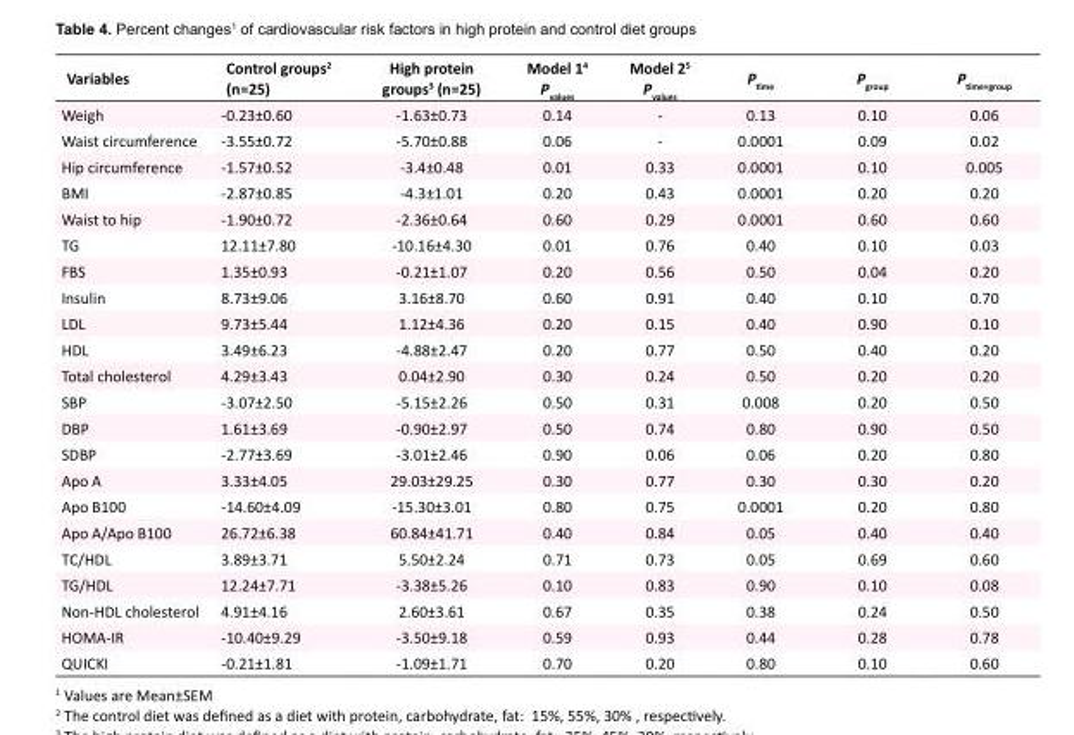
<table><tbody><tr><td>Variables</td><td>Control groups<sup>2</sup> (n=25)</td><td>High protein groups<sup>3</sup> (n=25)</td><td>Model 1<sup>4</sup> P<sub>values</sub></td><td>Model 2<sup>5</sup> P<sub>values</sub></td><td>P<sub>time</sub></td><td>P<sub>group</sub></td><td>P<sub>time×group</sub></td></tr><tr><td>Weigh</td><td>-0.23±0.60</td><td>-1.63±0.73</td><td>0.14</td><td>-</td><td>0.13</td><td>0.10</td><td>0.06</td></tr><tr><td>Waist circumference</td><td>-3.55±0.72</td><td>-5.70±0.88</td><td>0.06</td><td>-</td><td>0.0001</td><td>0.09</td><td>0.02</td></tr><tr><td>Hip circumference</td><td>-1.57±0.52</td><td>-3.4±0.48</td><td>0.01</td><td>0.33</td><td>0.0001</td><td>0.10</td><td>0.005</td></tr><tr><td>BMI</td><td>-2.87±0.85</td><td>-4.3±1.01</td><td>0.20</td><td>0.43</td><td>0.0001</td><td>0.20</td><td>0.20</td></tr><tr><td>Waist to hip</td><td>-1.90±0.72</td><td>-2.36±0.64</td><td>0.60</td><td>0.29</td><td>0.0001</td><td>0.60</td><td>0.60</td></tr><tr><td>TG</td><td>12.11±7.80</td><td>-10.16±4.30</td><td>0.01</td><td>0.76</td><td>0.40</td><td>0.10</td><td>0.03</td></tr><tr><td>FBS</td><td>1.35±0.93</td><td>-0.21±1.07</td><td>0.20</td><td>0.56</td><td>0.50</td><td>0.04</td><td>0.20</td></tr><tr><td>Insulin</td><td>8.73±9.06</td><td>3.16±8.70</td><td>0.60</td><td>0.91</td><td>0.40</td><td>0.10</td><td>0.70</td></tr><tr><td>LDL</td><td>9.73±5.44</td><td>1.12±4.36</td><td>0.20</td><td>0.15</td><td>0.40</td><td>0.90</td><td>0.10</td></tr><tr><td>HDL</td><td>3.49±6.23</td><td>-4.88±2.47</td><td>0.20</td><td>0.77</td><td>0.50</td><td>0.40</td><td>0.20</td></tr><tr><td>Total cholesterol</td><td>4.29±3.43</td><td>0.04±2.90</td><td>0.30</td><td>0.24</td><td>0.50</td><td>0.20</td><td>0.20</td></tr><tr><td>SBP</td><td>-3.07±2.50</td><td>-5.15±2.26</td><td>0.50</td><td>0.31</td><td>0.008</td><td>0.20</td><td>0.50</td></tr><tr><td>DBP</td><td>1.61±3.69</td><td>-0.90±2.97</td><td>0.50</td><td>0.74</td><td>0.80</td><td>0.90</td><td>0.50</td></tr><tr><td>SDBP</td><td>-2.77±3.69</td><td>-3.01±2.46</td><td>0.90</td><td>0.06</td><td>0.06</td><td>0.20</td><td>0.80</td></tr><tr><td>Apo A</td><td>3.33±4.05</td><td>29.03±29.25</td><td>0.30</td><td>0.77</td><td>0.30</td><td>0.30</td><td>0.20</td></tr><tr><td>Apo B100</td><td>-14.60±4.09</td><td>-15.30±3.01</td><td>0.80</td><td>0.75</td><td>0.0001</td><td>0.20</td><td>0.80</td></tr><tr><td>Apo A/Apo B100</td><td>26.72±6.38</td><td>60.84±41.71</td><td>0.40</td><td>0.84</td><td>0.05</td><td>0.40</td><td>0.40</td></tr><tr><td>TC/HDL</td><td>3.89±3.71</td><td>5.50±2.24</td><td>0.71</td><td>0.73</td><td>0.05</td><td>0.69</td><td>0.60</td></tr><tr><td>TG/HDL</td><td>12.24±7.71</td><td>-3.38±5.26</td><td>0.10</td><td>0.83</td><td>0.90</td><td>0.10</td><td>0.08</td></tr><tr><td>Non-HDL cholesterol</td><td>4.91±4.16</td><td>2.60±3.61</td><td>0.67</td><td>0.35</td><td>0.38</td><td>0.24</td><td>0.50</td></tr><tr><td>HOMA-IR</td><td>-10.40±9.29</td><td>-3.50±9.18</td><td>0.59</td><td>0.93</td><td>0.44</td><td>0.28</td><td>0.78</td></tr><tr><td>QUICKI</td><td>-0.21±1.81</td><td>-1.09±1.71</td><td>0.70</td><td>0.20</td><td>0.80</td><td>0.10</td><td>0.60</td></tr></tbody></table>